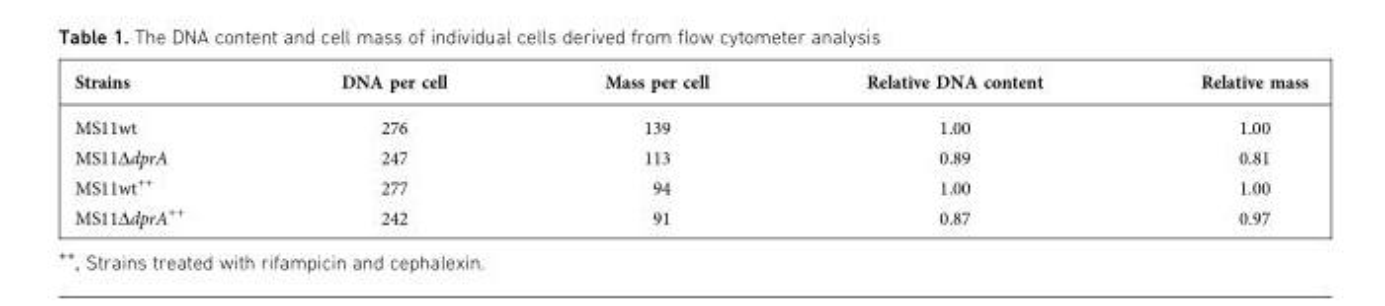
<table><thead><tr><td>Strains</td><td>DNA per cell</td><td>Mass per cell</td><td>Relative DNA content</td><td>Relative mass</td></tr></thead><tbody><tr><td>MS11wt</td><td>276</td><td>139</td><td>1.00</td><td>1.00</td></tr><tr><td>MS11ΔdprA</td><td>247</td><td>113</td><td>0.89</td><td>0.81</td></tr><tr><td>MS11wt<sup>++</sup></td><td>277</td><td>94</td><td>1.00</td><td>1.00</td></tr><tr><td>MS11ΔdprA<sup>++</sup></td><td>242</td><td>91</td><td>0.87</td><td>0.97</td></tr></tbody></table>